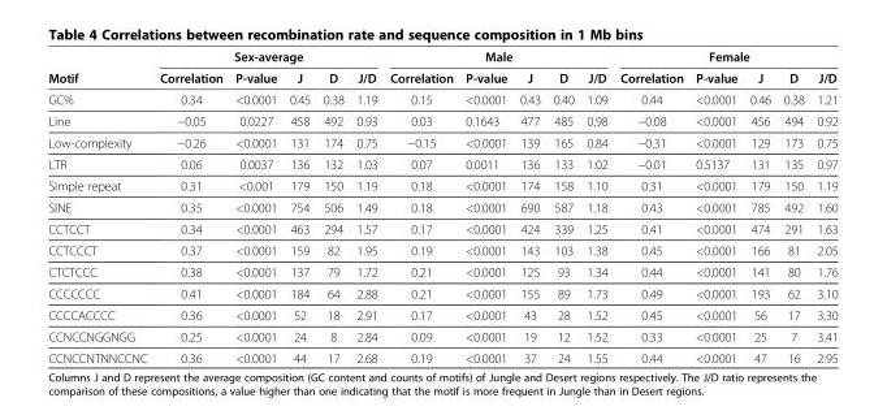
<table><thead><tr><td rowspan="2">Motif</td><td colspan="5">Sex-average</td><td colspan="5">Male</td><td colspan="5">Female</td></tr><tr><td>Correlation</td><td>P-value</td><td>J</td><td>D</td><td>J/D</td><td>Correlation</td><td>P-value</td><td>J</td><td>D</td><td>J/D</td><td>Correlation</td><td>P-value</td><td>J</td><td>D</td><td>J/D</td></tr></thead><tbody><tr><td>GC%</td><td>0.34</td><td>&lt;0.0001</td><td>0.45</td><td>0.38</td><td>1.19</td><td>0.15</td><td>&lt;0.0001</td><td>0.43</td><td>0.40</td><td>1.09</td><td>0.44</td><td>&lt;0.0001</td><td>0.46</td><td>0.38</td><td>1.21</td></tr><tr><td>Line</td><td>−0.05</td><td>0.0227</td><td>458</td><td>492</td><td>0.93</td><td>0.03</td><td>0.1643</td><td>477</td><td>485</td><td>0.98</td><td>−0.08</td><td>&lt;0.0001</td><td>456</td><td>494</td><td>0.92</td></tr><tr><td>Low-complexity</td><td>−0.26</td><td>&lt;0.0001</td><td>131</td><td>174</td><td>0.75</td><td>−0.15</td><td>&lt;0.0001</td><td>139</td><td>165</td><td>0.84</td><td>−0.31</td><td>&lt;0.0001</td><td>129</td><td>173</td><td>0.75</td></tr><tr><td>LTR</td><td>0.06</td><td>0.0037</td><td>136</td><td>132</td><td>1.03</td><td>0.07</td><td>0.0011</td><td>136</td><td>133</td><td>1.02</td><td>−0.01</td><td>0.5137</td><td>131</td><td>135</td><td>0.97</td></tr><tr><td>Simple repeat</td><td>0.31</td><td>&lt;0.001</td><td>179</td><td>150</td><td>1.19</td><td>0.18</td><td>&lt;0.0001</td><td>174</td><td>158</td><td>1.10</td><td>0.31</td><td>&lt;0.0001</td><td>179</td><td>150</td><td>1.19</td></tr><tr><td>SINE</td><td>0.35</td><td>&lt;0.0001</td><td>754</td><td>506</td><td>1.49</td><td>0.18</td><td>&lt;0.0001</td><td>690</td><td>587</td><td>1.18</td><td>0.43</td><td>&lt;0.0001</td><td>785</td><td>492</td><td>1.60</td></tr><tr><td>CCTCCT</td><td>0.34</td><td>&lt;0.0001</td><td>463</td><td>294</td><td>1.57</td><td>0.17</td><td>&lt;0.0001</td><td>424</td><td>339</td><td>1.25</td><td>0.41</td><td>&lt;0.0001</td><td>474</td><td>291</td><td>1.63</td></tr><tr><td>CCTCCCT</td><td>0.37</td><td>&lt;0.0001</td><td>159</td><td>82</td><td>1.95</td><td>0.19</td><td>&lt;0.0001</td><td>143</td><td>103</td><td>1.38</td><td>0.45</td><td>&lt;0.0001</td><td>166</td><td>81</td><td>2.05</td></tr><tr><td>CTCTCCC</td><td>0.38</td><td>&lt;0.0001</td><td>137</td><td>79</td><td>1.72</td><td>0.21</td><td>&lt;0.0001</td><td>125</td><td>93</td><td>1.34</td><td>0.44</td><td>&lt;0.0001</td><td>141</td><td>80</td><td>1.76</td></tr><tr><td>CCCCCCC</td><td>0.41</td><td>&lt;0.0001</td><td>184</td><td>64</td><td>2.88</td><td>0.21</td><td>&lt;0.0001</td><td>155</td><td>89</td><td>1.73</td><td>0.49</td><td>&lt;0.0001</td><td>193</td><td>62</td><td>3.10</td></tr><tr><td>CCCCACCCC</td><td>0.36</td><td>&lt;0.0001</td><td>52</td><td>18</td><td>2.91</td><td>0.17</td><td>&lt;0.0001</td><td>43</td><td>28</td><td>1.52</td><td>0.45</td><td>&lt;0.0001</td><td>56</td><td>17</td><td>3.30</td></tr><tr><td>CCNCCNGGNGG</td><td>0.25</td><td>&lt;0.0001</td><td>24</td><td>8</td><td>2.84</td><td>0.09</td><td>&lt;0.0001</td><td>19</td><td>12</td><td>1.52</td><td>0.33</td><td>&lt;0.0001</td><td>25</td><td>7</td><td>3.41</td></tr><tr><td>CCNCCNTNNCCNC</td><td>0.36</td><td>&lt;0.0001</td><td>44</td><td>17</td><td>2.68</td><td>0.19</td><td>&lt;0.0001</td><td>37</td><td>24</td><td>1.55</td><td>0.44</td><td>&lt;0.0001</td><td>47</td><td>16</td><td>2.95</td></tr></tbody></table>